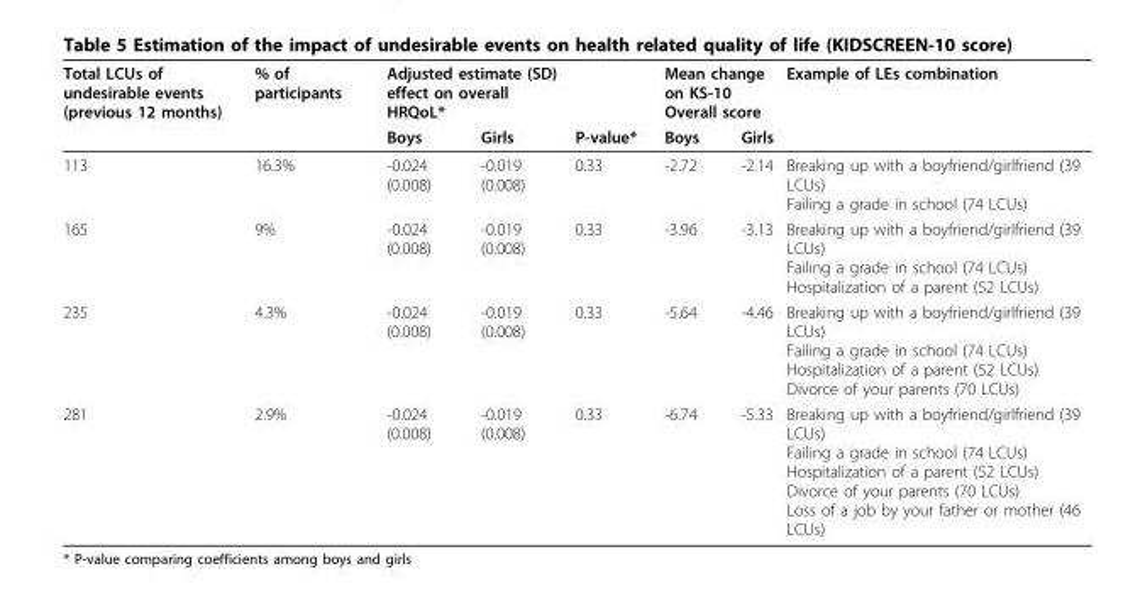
<table><thead><tr><td rowspan="2">Total LCUs of undesirable events (previous 12 months)</td><td rowspan="2">% of participants</td><td colspan="2">Adjusted estimate (SD) effect on overall HRQoL*</td><td rowspan="2">P-value*</td><td colspan="2">Mean change on KS-10 Overall score</td><td rowspan="2">Example of LEs combination</td></tr><tr><td>Boys</td><td>Girls</td><td>Boys</td><td>Girls</td></tr></thead><tbody><tr><td>113</td><td>16.3%</td><td>-0.024 (0.008)</td><td>-0.019 (0.008)</td><td>0.33</td><td>-2.72</td><td>-2.14</td><td>Breaking up with a boyfriend/girlfriend (39 LCUs) Failing a grade in school (74 LCUs)</td></tr><tr><td>165</td><td>9%</td><td>-0.024 (0.008)</td><td>-0.019 (0.008)</td><td>0.33</td><td>-3.96</td><td>-3.13</td><td>Breaking up with a boyfriend/girlfriend (39 LCUs) Failing a grade in school (74 LCUs) Hospitalization of a parent (52 LCUs)</td></tr><tr><td>235</td><td>4.3%</td><td>-0.024 (0.008)</td><td>-0.019 (0.008)</td><td>0.33</td><td>-5.64</td><td>-4.46</td><td>Breaking up with a boyfriend/girlfriend (39 LCUs) Failing a grade in school (74 LCUs) Hospitalization of a parent (52 LCUs) Divorce of your parents (70 LCUs)</td></tr><tr><td>281</td><td>2.9%</td><td>-0.024 (0.008)</td><td>-0.019 (0.008)</td><td>0.33</td><td>-6.74</td><td>-5.33</td><td>Breaking up with a boyfriend/girlfriend (39 LCUs) Failing a grade in school (74 LCUs) Hospitalization of a parent (52 LCUs) Divorce of your parents (70 LCUs) Loss of a job by your father or mother (46 LCUs)</td></tr></tbody></table>